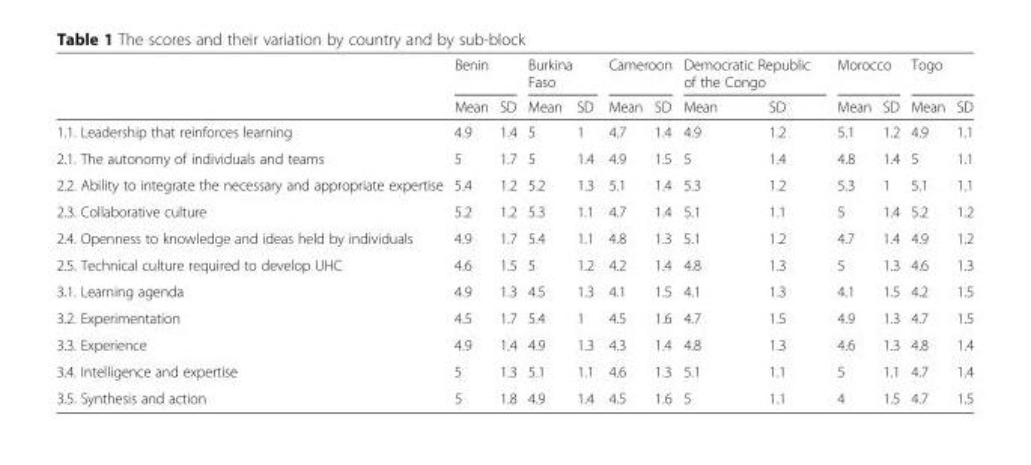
<table><thead><tr><td rowspan="2"></td><td colspan="2">Benin</td><td colspan="2">Burkina Faso</td><td colspan="2">Cameroon</td><td colspan="2">Democratic Republic of the Congo</td><td colspan="2">Morocco</td><td colspan="2">Togo</td></tr><tr><td>Mean</td><td>SD</td><td>Mean</td><td>SD</td><td>Mean</td><td>SD</td><td>Mean</td><td>SD</td><td>Mean</td><td>SD</td><td>Mean</td><td>SD</td></tr></thead><tbody><tr><td>1.1. Leadership that reinforces learning</td><td>4.9</td><td>1.4</td><td>5</td><td>1</td><td>4.7</td><td>1.4</td><td>4.9</td><td>1.2</td><td>5.1</td><td>1.2</td><td>4.9</td><td>1.1</td></tr><tr><td>2.1. The autonomy of individuals and teams</td><td>5</td><td>1.7</td><td>5</td><td>1.4</td><td>4.9</td><td>1.5</td><td>5</td><td>1.4</td><td>4.8</td><td>1.4</td><td>5</td><td>1.1</td></tr><tr><td>2.2. Ability to integrate the necessary and appropriate expertise</td><td>5.4</td><td>1.2</td><td>5.2</td><td>1.3</td><td>5.1</td><td>1.4</td><td>5.3</td><td>1.2</td><td>5.3</td><td>1</td><td>5.1</td><td>1.1</td></tr><tr><td>2.3. Collaborative culture</td><td>5.2</td><td>1.2</td><td>5.3</td><td>1.1</td><td>4.7</td><td>1.4</td><td>5.1</td><td>1.1</td><td>5</td><td>1.4</td><td>5.2</td><td>1.2</td></tr><tr><td>2.4. Openness to knowledge and ideas held by individuals</td><td>4.9</td><td>1.7</td><td>5.4</td><td>1.1</td><td>4.8</td><td>1.3</td><td>5.1</td><td>1.2</td><td>4.7</td><td>1.4</td><td>4.9</td><td>1.2</td></tr><tr><td>2.5. Technical culture required to develop UHC</td><td>4.6</td><td>1.5</td><td>5</td><td>1.2</td><td>4.2</td><td>1.4</td><td>4.8</td><td>1.3</td><td>5</td><td>1.3</td><td>4.6</td><td>1.3</td></tr><tr><td>3.1. Learning agenda</td><td>4.9</td><td>1.3</td><td>4.5</td><td>1.3</td><td>4.1</td><td>1.5</td><td>4.1</td><td>1.3</td><td>4.1</td><td>1.5</td><td>4.2</td><td>1.5</td></tr><tr><td>3.2. Experimentation</td><td>4.5</td><td>1.7</td><td>5.4</td><td>1</td><td>4.5</td><td>1.6</td><td>4.7</td><td>1.5</td><td>4.9</td><td>1.3</td><td>4.7</td><td>1.5</td></tr><tr><td>3.3. Experience</td><td>4.9</td><td>1.4</td><td>4.9</td><td>1.3</td><td>4.3</td><td>1.4</td><td>4.8</td><td>1.3</td><td>4.6</td><td>1.3</td><td>4.8</td><td>1.4</td></tr><tr><td>3.4. Intelligence and expertise</td><td>5</td><td>1.3</td><td>5.1</td><td>1.1</td><td>4.6</td><td>1.3</td><td>5.1</td><td>1.1</td><td>5</td><td>1.1</td><td>4.7</td><td>1.4</td></tr><tr><td>3.5. Synthesis and action</td><td>5</td><td>1.8</td><td>4.9</td><td>1.4</td><td>4.5</td><td>1.6</td><td>5</td><td>1.1</td><td>4</td><td>1.5</td><td>4.7</td><td>1.5</td></tr></tbody></table>